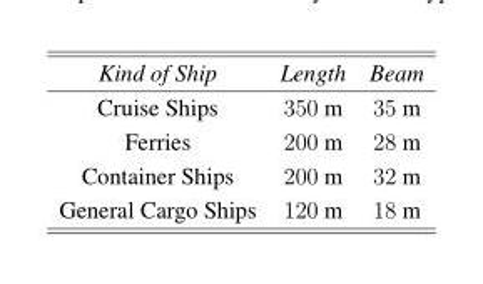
<table><thead><tr><td>Kind of Ship</td><td>Length</td><td>Beam</td></tr></thead><tbody><tr><td>Cruise Ships</td><td>350 m</td><td>35 m</td></tr><tr><td>Ferries</td><td>200 m</td><td>28 m</td></tr><tr><td>Container Ships</td><td>200 m</td><td>32 m</td></tr><tr><td>General Cargo Ships</td><td>120 m</td><td>18 m</td></tr></tbody></table>